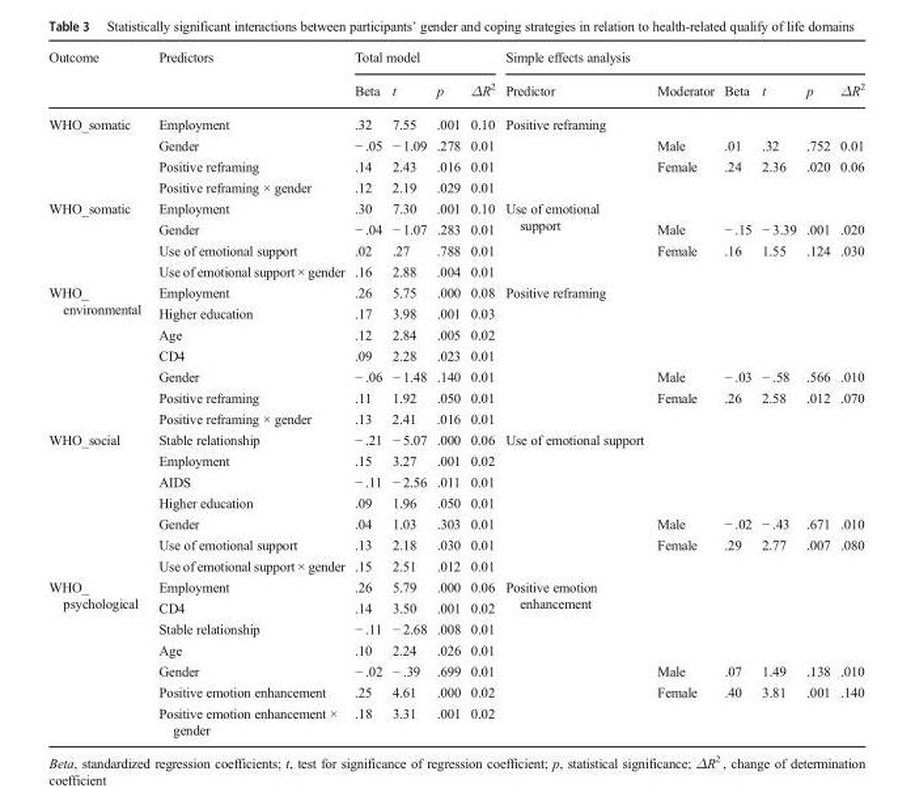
<table><thead><tr><td rowspan="2">Outcome</td><td rowspan="2">Predictors</td><td colspan="4">Total model</td><td colspan="6">Simple effects analysis</td></tr><tr><td>Beta</td><td>t</td><td>p</td><td>ΔR<sup>2</sup></td><td>Predictor</td><td>Moderator</td><td>Beta</td><td>t</td><td>p</td><td>ΔR<sup>2</sup></td></tr></thead><tbody><tr><td rowspan="4">WHO_somatic</td><td>Employment</td><td>.32</td><td>7.55</td><td>.001</td><td>0.10</td><td rowspan="4">Positive reframing</td><td></td><td></td><td></td><td></td><td></td></tr><tr><td>Gender</td><td>− .05</td><td>− 1.09</td><td>.278</td><td>0.01</td><td>Male</td><td>.01</td><td>.32</td><td>.752</td><td>0.01</td></tr><tr><td>Positive reframing</td><td>.14</td><td>2.43</td><td>.016</td><td>0.01</td><td>Female</td><td>.24</td><td>2.36</td><td>.020</td><td>0.06</td></tr><tr><td>Positive reframing × gender</td><td>.12</td><td>2.19</td><td>.029</td><td>0.01</td><td></td><td></td><td></td><td></td><td></td></tr><tr><td rowspan="4">WHO_somatic</td><td>Employment</td><td>.30</td><td>7.30</td><td>.001</td><td>0.10</td><td rowspan="4">Use of emotional support</td><td></td><td></td><td></td><td></td><td></td></tr><tr><td>Gender</td><td>− .04</td><td>− 1.07</td><td>.283</td><td>0.01</td><td>Male</td><td>− .15</td><td>− 3.39</td><td>.001</td><td>.020</td></tr><tr><td>Use of emotional support</td><td>.02</td><td>.27</td><td>.788</td><td>0.01</td><td>Female</td><td>.16</td><td>1.55</td><td>.124</td><td>.030</td></tr><tr><td>Use of emotional support × gender</td><td>.16</td><td>2.88</td><td>.004</td><td>0.01</td><td></td><td></td><td></td><td></td><td></td></tr><tr><td rowspan="7">WHO_ environmental</td><td>Employment</td><td>.26</td><td>5.75</td><td>.000</td><td>0.08</td><td rowspan="7">Positive reframing</td><td></td><td></td><td></td><td></td><td></td></tr><tr><td>Higher education</td><td>.17</td><td>3.98</td><td>.001</td><td>0.03</td><td></td><td></td><td></td><td></td><td></td></tr><tr><td>Age</td><td>.12</td><td>2.84</td><td>.005</td><td>0.02</td><td></td><td></td><td></td><td></td><td></td></tr><tr><td>CD4</td><td>.09</td><td>2.28</td><td>.023</td><td>0.01</td><td></td><td></td><td></td><td></td><td></td></tr><tr><td>Gender</td><td>− .06</td><td>− 1.48</td><td>.140</td><td>0.01</td><td>Male</td><td>− .03</td><td>− .58</td><td>.566</td><td>.010</td></tr><tr><td>Positive reframing</td><td>.11</td><td>1.92</td><td>.050</td><td>0.01</td><td>Female</td><td>.26</td><td>2.58</td><td>.012</td><td>.070</td></tr><tr><td>Positive reframing × gender</td><td>.13</td><td>2.41</td><td>.016</td><td>0.01</td><td></td><td></td><td></td><td></td><td></td></tr><tr><td rowspan="7">WHO_social</td><td>Stable relationship</td><td>− .21</td><td>− 5.07</td><td>.000</td><td>0.06</td><td rowspan="7">Use of emotional support</td><td></td><td></td><td></td><td></td><td></td></tr><tr><td>Employment</td><td>.15</td><td>3.27</td><td>.001</td><td>0.02</td><td></td><td></td><td></td><td></td><td></td></tr><tr><td>AIDS</td><td>− .11</td><td>− 2.56</td><td>.011</td><td>0.01</td><td></td><td></td><td></td><td></td><td></td></tr><tr><td>Higher education</td><td>.09</td><td>1.96</td><td>.050</td><td>0.01</td><td></td><td></td><td></td><td></td><td></td></tr><tr><td>Gender</td><td>.04</td><td>1.03</td><td>.303</td><td>0.01</td><td>Male</td><td>− .02</td><td>− .43</td><td>.671</td><td>.010</td></tr><tr><td>Use of emotional support</td><td>.13</td><td>2.18</td><td>.030</td><td>0.01</td><td>Female</td><td>.29</td><td>2.77</td><td>.007</td><td>.080</td></tr><tr><td>Use of emotional support × gender</td><td>.15</td><td>2.51</td><td>.012</td><td>0.01</td><td></td><td></td><td></td><td></td><td></td></tr><tr><td rowspan="7">WHO_ psychological</td><td>Employment</td><td>.26</td><td>5.79</td><td>.000</td><td>0.06</td><td rowspan="7">Positive emotion enhancement</td><td></td><td></td><td></td><td></td><td></td></tr><tr><td>CD4</td><td>.14</td><td>3.50</td><td>.001</td><td>0.02</td><td></td><td></td><td></td><td></td><td></td></tr><tr><td>Stable relationship</td><td>− .11</td><td>− 2.68</td><td>.008</td><td>0.01</td><td></td><td></td><td></td><td></td><td></td></tr><tr><td>Age</td><td>.10</td><td>2.24</td><td>.026</td><td>0.01</td><td></td><td></td><td></td><td></td><td></td></tr><tr><td>Gender</td><td>− .02</td><td>− .39</td><td>.699</td><td>0.01</td><td>Male</td><td>.07</td><td>1.49</td><td>.138</td><td>.010</td></tr><tr><td>Positive emotion enhancement</td><td>.25</td><td>4.61</td><td>.000</td><td>0.02</td><td>Female</td><td>.40</td><td>3.81</td><td>.001</td><td>.140</td></tr><tr><td>Positive emotion enhancement × gender</td><td>.18</td><td>3.31</td><td>.001</td><td>0.02</td><td></td><td></td><td></td><td></td><td></td></tr></tbody></table>